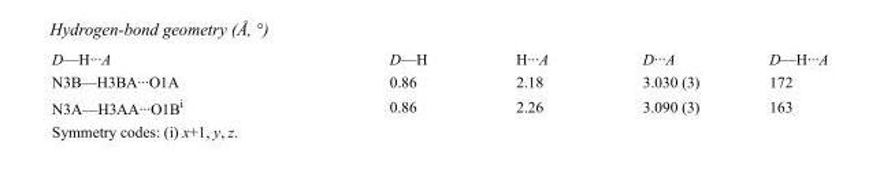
<table><tbody><tr><td>D—H···A</td><td>D—H</td><td>H···A</td><td>D···A</td><td>D—H···A</td></tr><tr><td>N3B—H3BA···O1A</td><td>0.86</td><td>2.18</td><td>3.030 (3)</td><td>172</td></tr><tr><td>N3A—H3AA···O1B<sup>i</sup></td><td>0.86</td><td>2.26</td><td>3.090 (3)</td><td>163</td></tr></tbody></table>